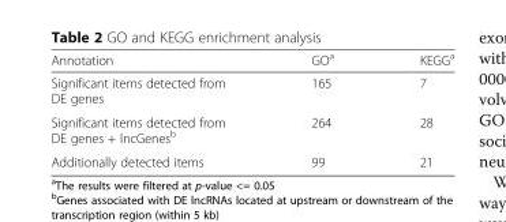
<table><thead><tr><td>Annotation</td><td>GO<sup>a</sup></td><td>KEGG<sup>a</sup></td></tr></thead><tbody><tr><td>Significant items detected from DE genes</td><td>165</td><td>7</td></tr><tr><td>Significant items detected from DE genes + lncGenes<sup>b</sup></td><td>264</td><td>28</td></tr><tr><td>Additionally detected items</td><td>99</td><td>21</td></tr></tbody></table>